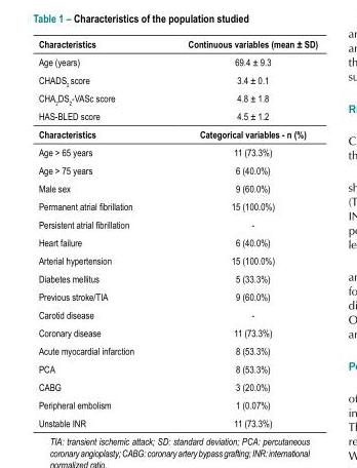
<table><thead><tr><td>Characteristics</td><td>Continuous variables (mean ± SD)</td></tr></thead><tbody><tr><td>Age (years)</td><td>69.4 ± 9.3</td></tr><tr><td>CHADS<sub>2</sub> score</td><td>3.4 ± 0.1</td></tr><tr><td>CHA<sub>2</sub>DS<sub>2</sub>-VASc score</td><td>4.8 ± 1.8</td></tr><tr><td>HAS-BLED score</td><td>4.5 ± 1.2</td></tr><tr><td>Characteristics</td><td>Categorical variables - n (%)</td></tr><tr><td>Age &gt; 65 years</td><td>11 (73.3%)</td></tr><tr><td>Age &gt; 75 years</td><td>6 (40.0%)</td></tr><tr><td>Male sex</td><td>9 (60.0%)</td></tr><tr><td>Permanent atrial fibrillation</td><td>15 (100.0%)</td></tr><tr><td>Persistent atrial fibrillation</td><td>-</td></tr><tr><td>Heart failure</td><td>6 (40.0%)</td></tr><tr><td>Arterial hypertension</td><td>15 (100.0%)</td></tr><tr><td>Diabetes mellitus</td><td>5 (33.3%)</td></tr><tr><td>Previous stroke/TIA</td><td>9 (60.0%)</td></tr><tr><td>Carotid disease</td><td>-</td></tr><tr><td>Coronary disease</td><td>11 (73.3%)</td></tr><tr><td>Acute myocardial infarction</td><td>8 (53.3%)</td></tr><tr><td>PCA</td><td>8 (53.3%)</td></tr><tr><td>CABG</td><td>3 (20.0%)</td></tr><tr><td>Peripheral embolism</td><td>1 (0.07%)</td></tr><tr><td>Unstable INR</td><td>11 (73.3%)</td></tr></tbody></table>